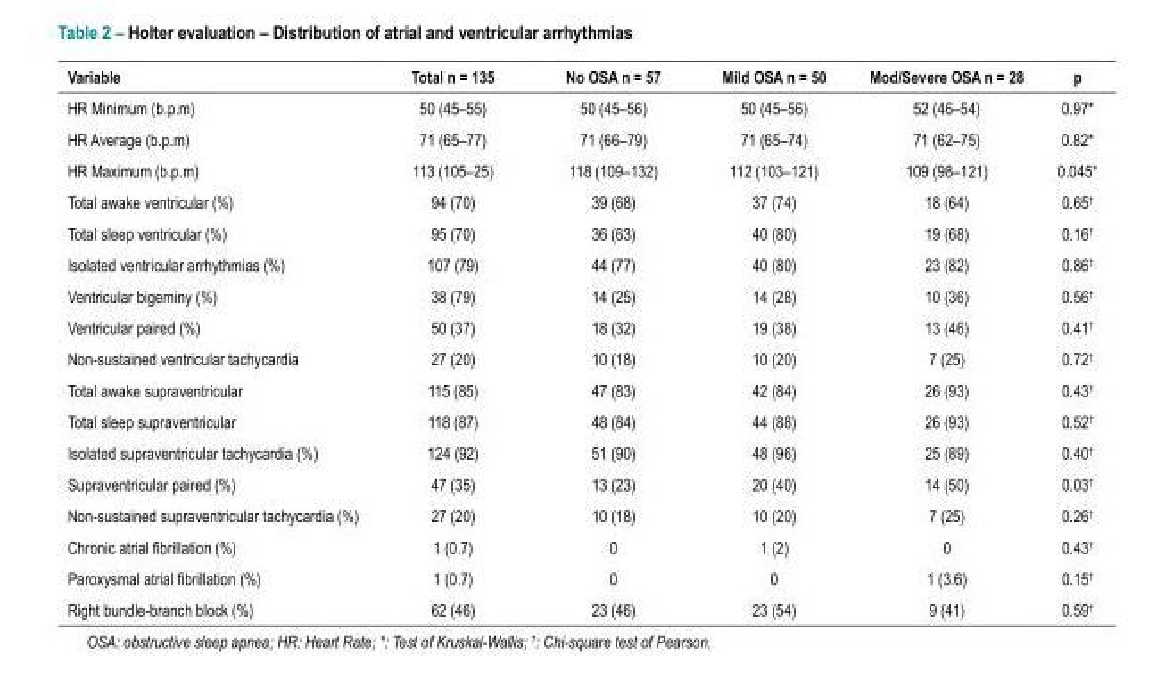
<table><thead><tr><td>Variable</td><td>Total n = 135</td><td>No OSA n = 57</td><td>Mild OSA n = 50</td><td>Mod/Severe OSA n = 28</td><td>p</td></tr></thead><tbody><tr><td>HR Minimum (b.p.m)</td><td>50 (45–55)</td><td>50 (45–56)</td><td>50 (45–56)</td><td>52 (46–54)</td><td>0.97*</td></tr><tr><td>HR Average (b.p.m)</td><td>71 (65–77)</td><td>71 (66–79)</td><td>71 (65–74)</td><td>71 (62–75)</td><td>0.82*</td></tr><tr><td>HR Maximum (b.p.m)</td><td>113 (105–25)</td><td>118 (109–132)</td><td>112 (103–121)</td><td>109 (98–121)</td><td>0.045*</td></tr><tr><td>Total awake ventricular (%)</td><td>94 (70)</td><td>39 (68)</td><td>37 (74)</td><td>18 (64)</td><td>0.65<sup>†</sup></td></tr><tr><td>Total sleep ventricular (%)</td><td>95 (70)</td><td>36 (63)</td><td>40 (80)</td><td>19 (68)</td><td>0.16<sup>†</sup></td></tr><tr><td>Isolated ventricular arrhythmias (%)</td><td>107 (79)</td><td>44 (77)</td><td>40 (80)</td><td>23 (82)</td><td>0.86<sup>†</sup></td></tr><tr><td>Ventricular bigeminy (%)</td><td>38 (79)</td><td>14 (25)</td><td>14 (28)</td><td>10 (36)</td><td>0.56<sup>†</sup></td></tr><tr><td>Ventricular paired (%)</td><td>50 (37)</td><td>18 (32)</td><td>19 (38)</td><td>13 (46)</td><td>0.41<sup>†</sup></td></tr><tr><td>Non-sustained ventricular tachycardia</td><td>27 (20)</td><td>10 (18)</td><td>10 (20)</td><td>7 (25)</td><td>0.72<sup>†</sup></td></tr><tr><td>Total awake supraventricular</td><td>115 (85)</td><td>47 (83)</td><td>42 (84)</td><td>26 (93)</td><td>0.43<sup>†</sup></td></tr><tr><td>Total sleep supraventricular</td><td>118 (87)</td><td>48 (84)</td><td>44 (88)</td><td>26 (93)</td><td>0.52<sup>†</sup></td></tr><tr><td>Isolated supraventricular tachycardia (%)</td><td>124 (92)</td><td>51 (90)</td><td>48 (96)</td><td>25 (89)</td><td>0.40<sup>†</sup></td></tr><tr><td>Supraventricular paired (%)</td><td>47 (35)</td><td>13 (23)</td><td>20 (40)</td><td>14 (50)</td><td>0.03<sup>†</sup></td></tr><tr><td>Non-sustained supraventricular tachycardia (%)</td><td>27 (20)</td><td>10 (18)</td><td>10 (20)</td><td>7 (25)</td><td>0.26<sup>†</sup></td></tr><tr><td>Chronic atrial fibrillation (%)</td><td>1 (0.7)</td><td>0</td><td>1 (2)</td><td>0</td><td>0.43<sup>†</sup></td></tr><tr><td>Paroxysmal atrial fibrillation (%)</td><td>1 (0.7)</td><td>0</td><td>0</td><td>1 (3.6)</td><td>0.15<sup>†</sup></td></tr><tr><td>Right bundle-branch block (%)</td><td>62 (46)</td><td>23 (46)</td><td>23 (54)</td><td>9 (41)</td><td>0.59<sup>†</sup></td></tr></tbody></table>